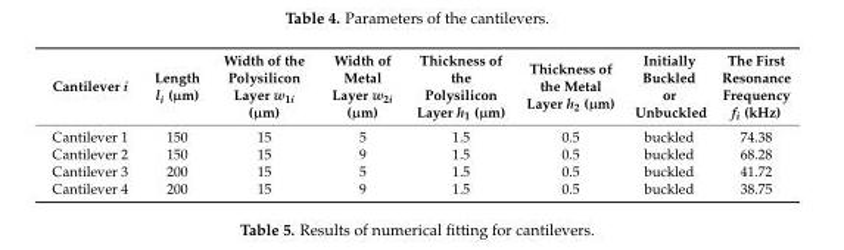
<table><thead><tr><td>Cantilever i</td><td>Length l<sub>i</sub> (µm)</td><td>Width of the Polysilicon Layer w<sub>1i</sub> (µm)</td><td>Width of Metal Layer w<sub>2i</sub> (µm)</td><td>Thickness of the Polysilicon Layer h<sub>1</sub> (µm)</td><td>Thickness of the Metal Layer h<sub>2</sub> (µm)</td><td>Initially Buckled or Unbuckled</td><td>The First Resonance Frequency f<sub>i</sub> (kHz)</td></tr></thead><tbody><tr><td>Cantilever 1</td><td>150</td><td>15</td><td>5</td><td>1.5</td><td>0.5</td><td>buckled</td><td>74.38</td></tr><tr><td>Cantilever 2</td><td>150</td><td>15</td><td>9</td><td>1.5</td><td>0.5</td><td>buckled</td><td>68.28</td></tr><tr><td>Cantilever 3</td><td>200</td><td>15</td><td>5</td><td>1.5</td><td>0.5</td><td>buckled</td><td>41.72</td></tr><tr><td>Cantilever 4</td><td>200</td><td>15</td><td>9</td><td>1.5</td><td>0.5</td><td>buckled</td><td>38.75</td></tr></tbody></table>